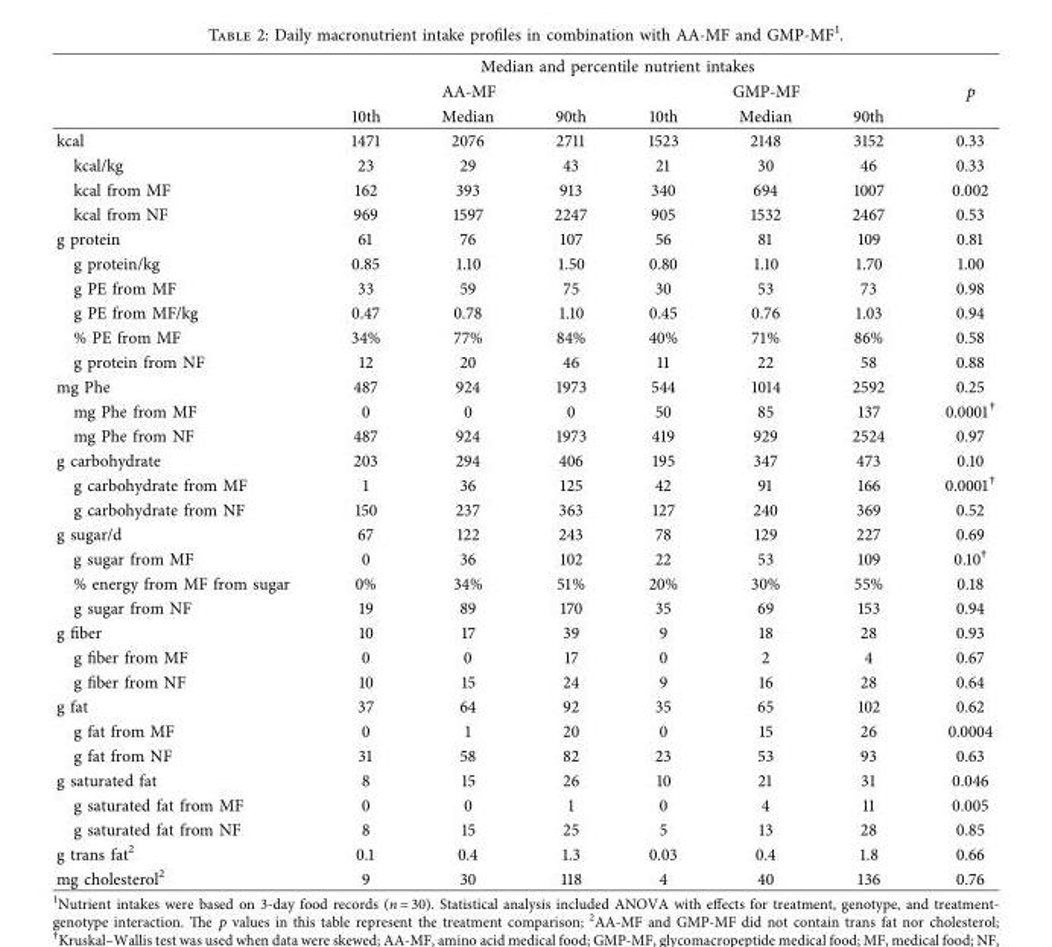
<table><thead><tr><td rowspan="3"></td><td colspan="6">Median and percentile nutrient intakes</td><td rowspan="3">p</td></tr><tr><td colspan="3">AA-MF</td><td colspan="3">GMP-MF</td></tr><tr><td>10th</td><td>Median</td><td>90th</td><td>10th</td><td>Median</td><td>90th</td></tr></thead><tbody><tr><td>kcal</td><td>1471</td><td>2076</td><td>2711</td><td>1523</td><td>2148</td><td>3152</td><td>0.33</td></tr><tr><td>kcal/kg</td><td>23</td><td>29</td><td>43</td><td>21</td><td>30</td><td>46</td><td>0.33</td></tr><tr><td>kcal from MF</td><td>162</td><td>393</td><td>913</td><td>340</td><td>694</td><td>1007</td><td>0.002</td></tr><tr><td>kcal from NF</td><td>969</td><td>1597</td><td>2247</td><td>905</td><td>1532</td><td>2467</td><td>0.53</td></tr><tr><td>g protein</td><td>61</td><td>76</td><td>107</td><td>56</td><td>81</td><td>109</td><td>0.81</td></tr><tr><td>g protein/kg</td><td>0.85</td><td>1.10</td><td>1.50</td><td>0.80</td><td>1.10</td><td>1.70</td><td>1.00</td></tr><tr><td>g PE from MF</td><td>33</td><td>59</td><td>75</td><td>30</td><td>53</td><td>73</td><td>0.98</td></tr><tr><td>g PE from MF/kg</td><td>0.47</td><td>0.78</td><td>1.10</td><td>0.45</td><td>0.76</td><td>1.03</td><td>0.94</td></tr><tr><td>% PE from MF</td><td>34%</td><td>77%</td><td>84%</td><td>40%</td><td>71%</td><td>86%</td><td>0.58</td></tr><tr><td>g protein from NF</td><td>12</td><td>20</td><td>46</td><td>11</td><td>22</td><td>58</td><td>0.88</td></tr><tr><td>mg Phe</td><td>487</td><td>924</td><td>1973</td><td>544</td><td>1014</td><td>2592</td><td>0.25</td></tr><tr><td>mg Phe from MF</td><td>0</td><td>0</td><td>0</td><td>50</td><td>85</td><td>137</td><td>0.0001<sup>†</sup></td></tr><tr><td>mg Phe from NF</td><td>487</td><td>924</td><td>1973</td><td>419</td><td>929</td><td>2524</td><td>0.97</td></tr><tr><td>g carbohydrate</td><td>203</td><td>294</td><td>406</td><td>195</td><td>347</td><td>473</td><td>0.10</td></tr><tr><td>g carbohydrate from MF</td><td>1</td><td>36</td><td>125</td><td>42</td><td>91</td><td>166</td><td>0.0001<sup>†</sup></td></tr><tr><td>g carbohydrate from NF</td><td>150</td><td>237</td><td>363</td><td>127</td><td>240</td><td>369</td><td>0.52</td></tr><tr><td>g sugar/d</td><td>67</td><td>122</td><td>243</td><td>78</td><td>129</td><td>227</td><td>0.69</td></tr><tr><td>g sugar from MF</td><td>0</td><td>36</td><td>102</td><td>22</td><td>53</td><td>109</td><td>0.10<sup>†</sup></td></tr><tr><td>% energy from MF from sugar</td><td>0%</td><td>34%</td><td>51%</td><td>20%</td><td>30%</td><td>55%</td><td>0.18</td></tr><tr><td>g sugar from NF</td><td>19</td><td>89</td><td>170</td><td>35</td><td>69</td><td>153</td><td>0.94</td></tr><tr><td>g fber</td><td>10</td><td>17</td><td>39</td><td>9</td><td>18</td><td>28</td><td>0.93</td></tr><tr><td>g fber from MF</td><td>0</td><td>0</td><td>17</td><td>0</td><td>2</td><td>4</td><td>0.67</td></tr><tr><td>g fber from NF</td><td>10</td><td>15</td><td>24</td><td>9</td><td>16</td><td>28</td><td>0.64</td></tr><tr><td>g fat</td><td>37</td><td>64</td><td>92</td><td>35</td><td>65</td><td>102</td><td>0.62</td></tr><tr><td>g fat from MF</td><td>0</td><td>1</td><td>20</td><td>0</td><td>15</td><td>26</td><td>0.0004</td></tr><tr><td>g fat from NF</td><td>31</td><td>58</td><td>82</td><td>23</td><td>53</td><td>93</td><td>0.63</td></tr><tr><td>g saturated fat</td><td>8</td><td>15</td><td>26</td><td>10</td><td>21</td><td>31</td><td>0.046</td></tr><tr><td>g saturated fat from MF</td><td>0</td><td>0</td><td>1</td><td>0</td><td>4</td><td>11</td><td>0.005</td></tr><tr><td>g saturated fat from NF</td><td>8</td><td>15</td><td>25</td><td>5</td><td>13</td><td>28</td><td>0.85</td></tr><tr><td>g trans fat<sup>2</sup></td><td>0.1</td><td>0.4</td><td>1.3</td><td>0.03</td><td>0.4</td><td>1.8</td><td>0.66</td></tr><tr><td>mg cholesterol<sup>2</sup></td><td>9</td><td>30</td><td>118</td><td>4</td><td>40</td><td>136</td><td>0.76</td></tr></tbody></table>